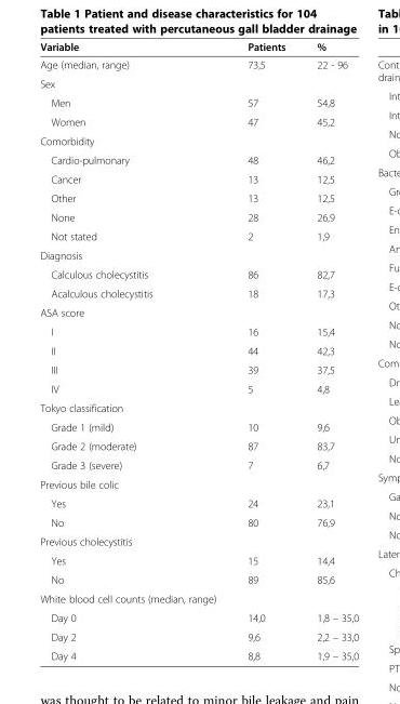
<table><thead><tr><td>Variable</td><td>Patients</td><td>%</td></tr></thead><tbody><tr><td>Age (median, range)</td><td>73,5</td><td>22 - 96</td></tr><tr><td colspan="3">Sex</td></tr><tr><td>Men</td><td>57</td><td>54,8</td></tr><tr><td>Women</td><td>47</td><td>45,2</td></tr><tr><td colspan="3">Comorbidity</td></tr><tr><td>Cardio-pulmonary</td><td>48</td><td>46,2</td></tr><tr><td>Cancer</td><td>13</td><td>12,5</td></tr><tr><td>Other</td><td>13</td><td>12,5</td></tr><tr><td>None</td><td>28</td><td>26,9</td></tr><tr><td>Not stated</td><td>2</td><td>1,9</td></tr><tr><td colspan="3">Diagnosis</td></tr><tr><td>Calculous cholecystitis</td><td>86</td><td>82,7</td></tr><tr><td>Acalculous cholecystitis</td><td>18</td><td>17,3</td></tr><tr><td colspan="3">ASA score</td></tr><tr><td>I</td><td>16</td><td>15,4</td></tr><tr><td>II</td><td>44</td><td>42,3</td></tr><tr><td>III</td><td>39</td><td>37,5</td></tr><tr><td>IV</td><td>5</td><td>4,8</td></tr><tr><td colspan="3">Tokyo classification</td></tr><tr><td>Grade 1 (mild)</td><td>10</td><td>9,6</td></tr><tr><td>Grade 2 (moderate)</td><td>87</td><td>83,7</td></tr><tr><td>Grade 3 (severe)</td><td>7</td><td>6,7</td></tr><tr><td colspan="3">Previous bile colic</td></tr><tr><td>Yes</td><td>24</td><td>23,1</td></tr><tr><td>No</td><td>80</td><td>76,9</td></tr><tr><td colspan="3">Previous cholecystitis</td></tr><tr><td>Yes</td><td>15</td><td>14,4</td></tr><tr><td>No</td><td>89</td><td>85,6</td></tr><tr><td colspan="3">White blood cell counts (median, range)</td></tr><tr><td>Day 0</td><td>14,0</td><td>1,8 – 35,0</td></tr><tr><td>Day 2</td><td>9,6</td><td>2,2 – 33,0</td></tr><tr><td>Day 4</td><td>8,8</td><td>1,9 – 35,0</td></tr></tbody></table>